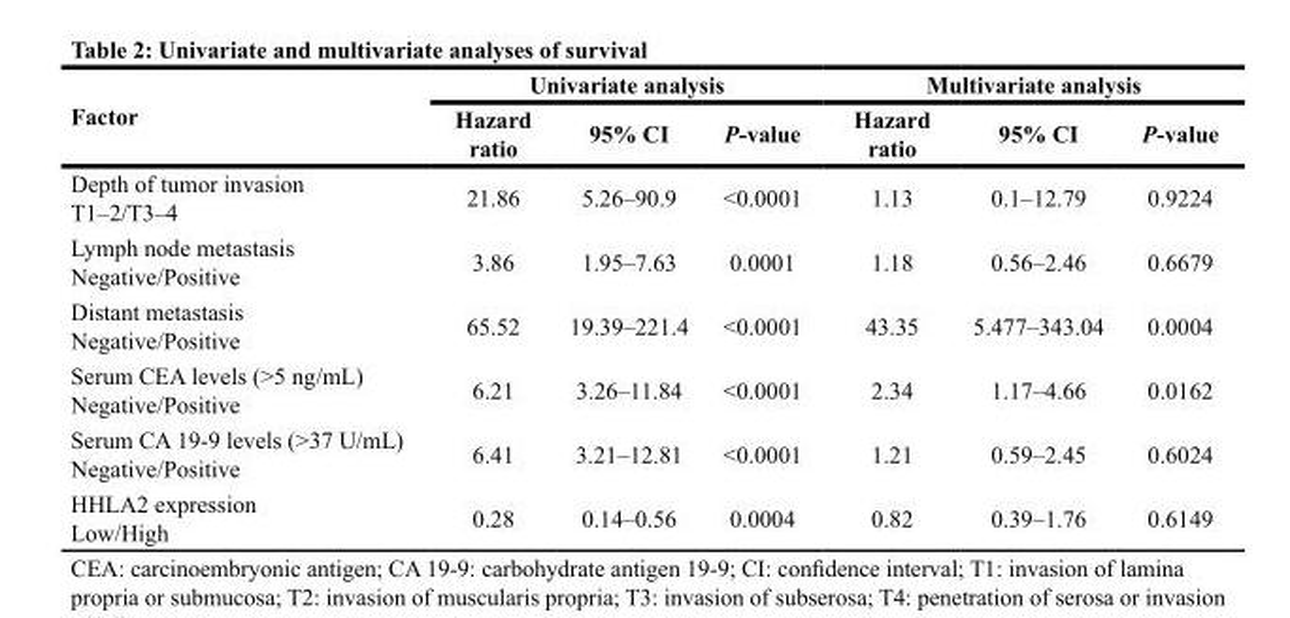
<table><thead><tr><td rowspan="2">Factor</td><td colspan="3">Univariate analysis</td><td colspan="3">Multivariate analysis</td></tr><tr><td>Hazard ratio</td><td>95% CI</td><td>P-value</td><td>Hazard ratio</td><td>95% CI</td><td>P-value</td></tr></thead><tbody><tr><td>Depth of tumor invasion T1–2/T3–4</td><td>21.86</td><td>5.26–90.9</td><td>&lt;0.0001</td><td>1.13</td><td>0.1–12.79</td><td>0.9224</td></tr><tr><td>Lymph node metastasis Negative/Positive</td><td>3.86</td><td>1.95–7.63</td><td>0.0001</td><td>1.18</td><td>0.56–2.46</td><td>0.6679</td></tr><tr><td>Distant metastasis Negative/Positive</td><td>65.52</td><td>19.39–221.4</td><td>&lt;0.0001</td><td>43.35</td><td>5.477–343.04</td><td>0.0004</td></tr><tr><td>Serum CEA levels (&gt;5 ng/mL) Negative/Positive</td><td>6.21</td><td>3.26–11.84</td><td>&lt;0.0001</td><td>2.34</td><td>1.17–4.66</td><td>0.0162</td></tr><tr><td>Serum CA 19-9 levels (&gt;37 U/mL) Negative/Positive</td><td>6.41</td><td>3.21–12.81</td><td>&lt;0.0001</td><td>1.21</td><td>0.59–2.45</td><td>0.6024</td></tr><tr><td>HHLA2 expression Low/High</td><td>0.28</td><td>0.14–0.56</td><td>0.0004</td><td>0.82</td><td>0.39–1.76</td><td>0.6149</td></tr></tbody></table>